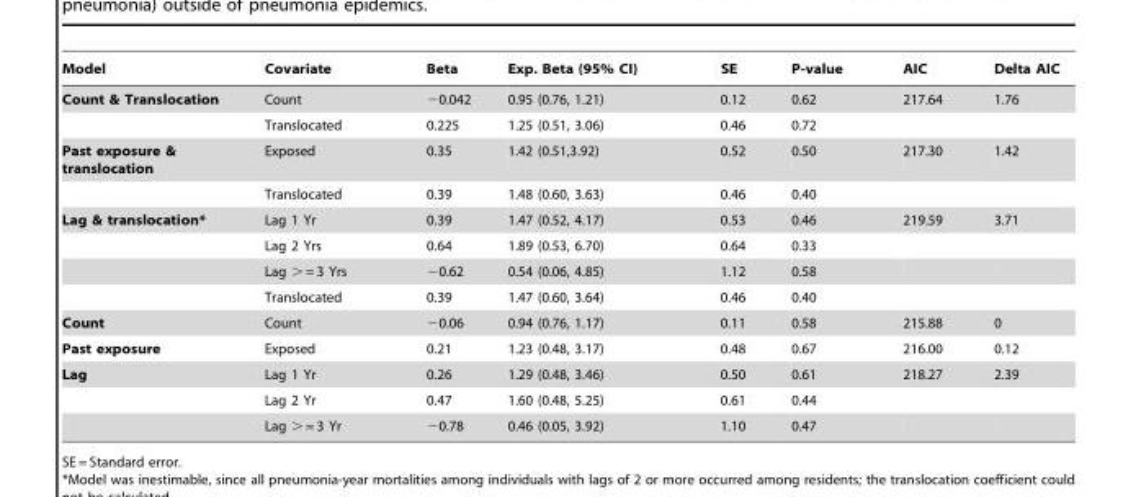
<table><thead><tr><td>Model</td><td>Covariate</td><td>Beta</td><td>Exp. Beta (95% CI)</td><td>SE</td><td>P-value</td><td>AIC</td><td>Delta AIC</td></tr></thead><tbody><tr><td rowspan="2">Count &amp; Translocation</td><td>Count</td><td>−0.042</td><td>0.95 (0.76, 1.21)</td><td>0.12</td><td>0.62</td><td>217.64</td><td>1.76</td></tr><tr><td>Translocated</td><td>0.225</td><td>1.25 (0.51, 3.06)</td><td>0.46</td><td>0.72</td><td></td><td></td></tr><tr><td rowspan="2">Past exposure &amp; translocation</td><td>Exposed</td><td>0.35</td><td>1.42 (0.51,3.92)</td><td>0.52</td><td>0.50</td><td>217.30</td><td>1.42</td></tr><tr><td>Translocated</td><td>0.39</td><td>1.48 (0.60, 3.63)</td><td>0.46</td><td>0.40</td><td></td><td></td></tr><tr><td rowspan="4">Lag &amp; translocation*</td><td>Lag 1 Yr</td><td>0.39</td><td>1.47 (0.52, 4.17)</td><td>0.53</td><td>0.46</td><td>219.59</td><td>3.71</td></tr><tr><td>Lag 2 Yrs</td><td>0.64</td><td>1.89 (0.53, 6.70)</td><td>0.64</td><td>0.33</td><td></td><td></td></tr><tr><td>Lag &gt; = 3 Yrs</td><td>−0.62</td><td>0.54 (0.06, 4.85)</td><td>1.12</td><td>0.58</td><td></td><td></td></tr><tr><td>Translocated</td><td>0.39</td><td>1.47 (0.60, 3.64)</td><td>0.46</td><td>0.40</td><td></td><td></td></tr><tr><td>Count</td><td>Count</td><td>−0.06</td><td>0.94 (0.76, 1.17)</td><td>0.11</td><td>0.58</td><td>215.88</td><td>0</td></tr><tr><td>Past exposure</td><td>Exposed</td><td>0.21</td><td>1.23 (0.48, 3.17)</td><td>0.48</td><td>0.67</td><td>216.00</td><td>0.12</td></tr><tr><td rowspan="3">Lag</td><td>Lag 1 Yr</td><td>0.26</td><td>1.29 (0.48, 3.46)</td><td>0.50</td><td>0.61</td><td>218.27</td><td>2.39</td></tr><tr><td>Lag 2 Yr</td><td>0.47</td><td>1.60 (0.48, 5.25)</td><td>0.61</td><td>0.44</td><td></td><td></td></tr><tr><td>Lag &gt; = 3 Yr</td><td>−0.78</td><td>0.46 (0.05, 3.92)</td><td>1.10</td><td>0.47</td><td></td><td></td></tr></tbody></table>